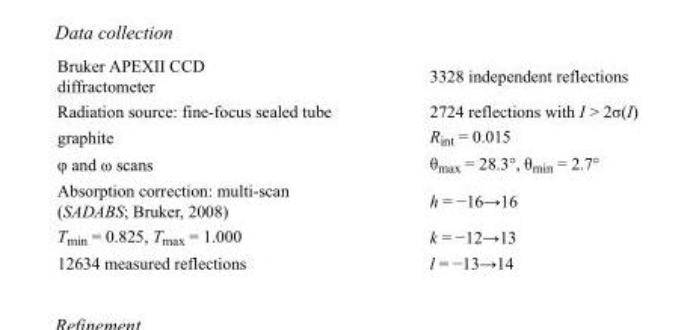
<table><tbody><tr><td>Bruker APEXII CCD diffractometer</td><td>3328 independent reflections</td></tr><tr><td>Radiation source: fine-focus sealed tube</td><td>2724 reflections with I &gt; 2σ(I)</td></tr><tr><td>graphite</td><td>R<sub>int</sub> = 0.015</td></tr><tr><td>φ and ω scans</td><td>θ<sub>max</sub> = 28.3°, θ<sub>min</sub> = 2.7°</td></tr><tr><td>Absorption correction: multi-scan (SADABS; Bruker, 2008)</td><td>h = −16→16</td></tr><tr><td>T<sub>min</sub> = 0.825, T<sub>max</sub> = 1.000</td><td>k = −12→13</td></tr><tr><td>12634 measured reflections</td><td>l = −13→14</td></tr></tbody></table>